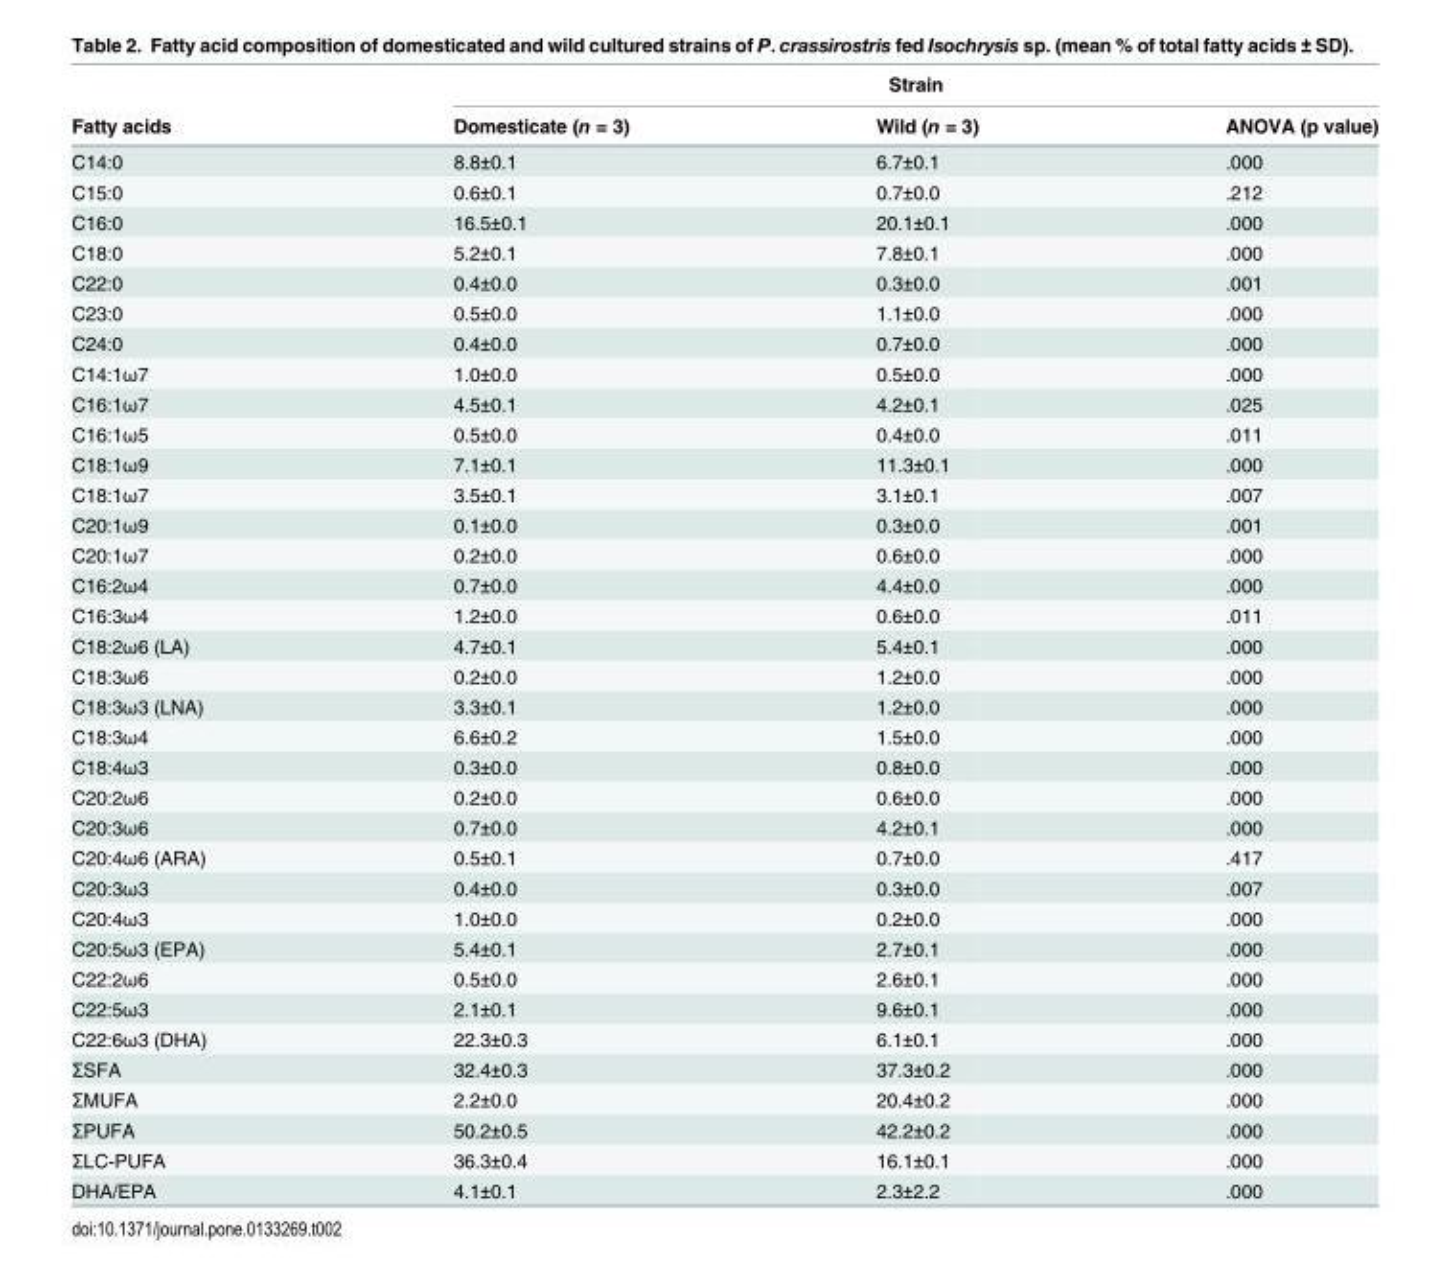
<table><thead><tr><td rowspan="2">Fatty acids</td><td colspan="3">Strain</td></tr><tr><td>Domesticate (n = 3)</td><td>Wild (n = 3)</td><td>ANOVA (p value)</td></tr></thead><tbody><tr><td>C14:0</td><td>8.8±0.1</td><td>6.7±0.1</td><td>.000</td></tr><tr><td>C15:0</td><td>0.6±0.1</td><td>0.7±0.0</td><td>.212</td></tr><tr><td>C16:0</td><td>16.5±0.1</td><td>20.1±0.1</td><td>.000</td></tr><tr><td>C18:0</td><td>5.2±0.1</td><td>7.8±0.1</td><td>.000</td></tr><tr><td>C22:0</td><td>0.4±0.0</td><td>0.3±0.0</td><td>.001</td></tr><tr><td>C23:0</td><td>0.5±0.0</td><td>1.1±0.0</td><td>.000</td></tr><tr><td>C24:0</td><td>0.4±0.0</td><td>0.7±0.0</td><td>.000</td></tr><tr><td>C14:1ω7</td><td>1.0±0.0</td><td>0.5±0.0</td><td>.000</td></tr><tr><td>C16:1ω7</td><td>4.5±0.1</td><td>4.2±0.1</td><td>.025</td></tr><tr><td>C16:1ω5</td><td>0.5±0.0</td><td>0.4±0.0</td><td>.011</td></tr><tr><td>C18:1ω9</td><td>7.1±0.1</td><td>11.3±0.1</td><td>.000</td></tr><tr><td>C18:1ω7</td><td>3.5±0.1</td><td>3.1±0.1</td><td>.007</td></tr><tr><td>C20:1ω9</td><td>0.1±0.0</td><td>0.3±0.0</td><td>.001</td></tr><tr><td>C20:1ω7</td><td>0.2±0.0</td><td>0.6±0.0</td><td>.000</td></tr><tr><td>C16:2ω4</td><td>0.7±0.0</td><td>4.4±0.0</td><td>.000</td></tr><tr><td>C16:3ω4</td><td>1.2±0.0</td><td>0.6±0.0</td><td>.011</td></tr><tr><td>C18:2ω6 (LA)</td><td>4.7±0.1</td><td>5.4±0.1</td><td>.000</td></tr><tr><td>C18:3ω6</td><td>0.2±0.0</td><td>1.2±0.0</td><td>.000</td></tr><tr><td>C18:3ω3 (LNA)</td><td>3.3±0.1</td><td>1.2±0.0</td><td>.000</td></tr><tr><td>C18:3ω4</td><td>6.6±0.2</td><td>1.5±0.0</td><td>.000</td></tr><tr><td>C18:4ω3</td><td>0.3±0.0</td><td>0.8±0.0</td><td>.000</td></tr><tr><td>C20:2ω6</td><td>0.2±0.0</td><td>0.6±0.0</td><td>.000</td></tr><tr><td>C20:3ω6</td><td>0.7±0.0</td><td>4.2±0.1</td><td>.000</td></tr><tr><td>C20:4ω6 (ARA)</td><td>0.5±0.1</td><td>0.7±0.0</td><td>.417</td></tr><tr><td>C20:3ω3</td><td>0.4±0.0</td><td>0.3±0.0</td><td>.007</td></tr><tr><td>C20:4ω3</td><td>1.0±0.0</td><td>0.2±0.0</td><td>.000</td></tr><tr><td>C20:5ω3 (EPA)</td><td>5.4±0.1</td><td>2.7±0.1</td><td>.000</td></tr><tr><td>C22:2ω6</td><td>0.5±0.0</td><td>2.6±0.1</td><td>.000</td></tr><tr><td>C22:5ω3</td><td>2.1±0.1</td><td>9.6±0.1</td><td>.000</td></tr><tr><td>C22:6ω3 (DHA)</td><td>22.3±0.3</td><td>6.1±0.1</td><td>.000</td></tr><tr><td>ΣSFA</td><td>32.4±0.3</td><td>37.3±0.2</td><td>.000</td></tr><tr><td>ΣMUFA</td><td>2.2±0.0</td><td>20.4±0.2</td><td>.000</td></tr><tr><td>ΣPUFA</td><td>50.2±0.5</td><td>42.2±0.2</td><td>.000</td></tr><tr><td>ΣLC-PUFA</td><td>36.3±0.4</td><td>16.1±0.1</td><td>.000</td></tr><tr><td>DHA/EPA</td><td>4.1±0.1</td><td>2.3±2.2</td><td>.000</td></tr></tbody></table>